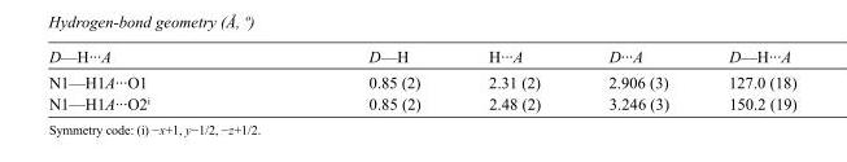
<table><tbody><tr><td>D—H···A</td><td>D—H</td><td>H···A</td><td>D···A</td><td>D—H···A</td></tr><tr><td>N1—H1A···O1</td><td>0.85 (2)</td><td>2.31 (2)</td><td>2.906 (3)</td><td>127.0 (18)</td></tr><tr><td>N1—H1A···O2<sup>i</sup></td><td>0.85 (2)</td><td>2.48 (2)</td><td>3.246 (3)</td><td>150.2 (19)</td></tr></tbody></table>